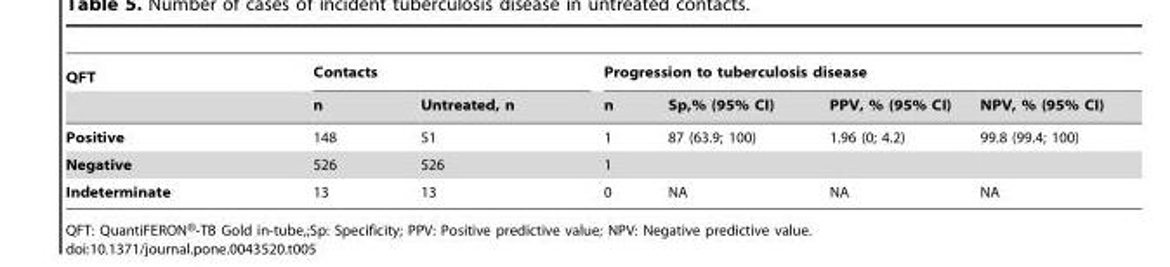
<table><thead><tr><td rowspan="2">QFT</td><td colspan="2">Contacts</td><td colspan="4">Progression to tuberculosis disease</td></tr><tr><td>n</td><td>Untreated, n</td><td>n</td><td>Sp,% (95% CI)</td><td>PPV, % (95% CI)</td><td>NPV, % (95% CI)</td></tr></thead><tbody><tr><td>Positive</td><td>148</td><td>51</td><td>1</td><td>87 (63.9; 100)</td><td>1.96 (0; 4.2)</td><td>99.8 (99.4; 100)</td></tr><tr><td>Negative</td><td>526</td><td>526</td><td>1</td><td></td><td></td><td></td></tr><tr><td>Indeterminate</td><td>13</td><td>13</td><td>0</td><td>NA</td><td>NA</td><td>NA</td></tr></tbody></table>